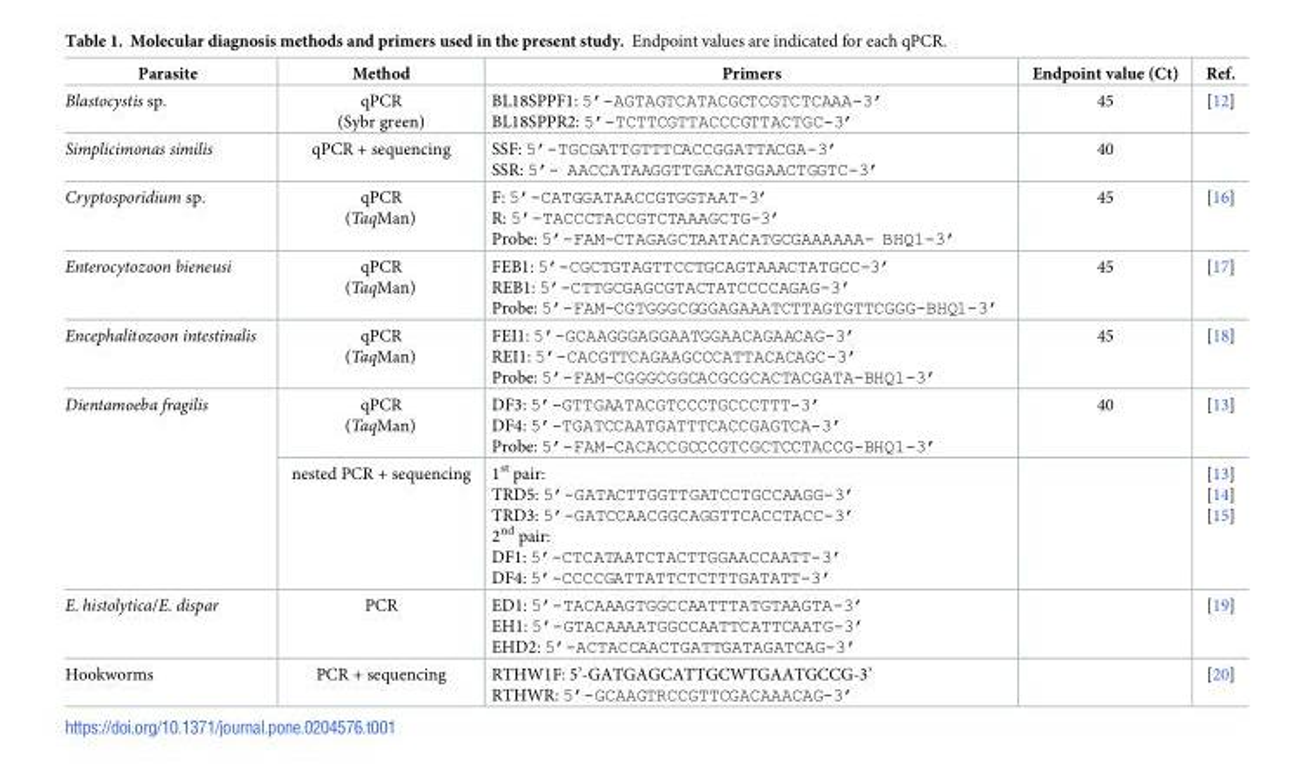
<table><thead><tr><td>Parasite</td><td>Method</td><td>Primers</td><td>Endpoint value (Ct)</td><td>Ref.</td></tr></thead><tbody><tr><td>Blastocystis sp.</td><td>qPCR (Sybr green)</td><td>BL18SPPF1: 5’-AGTAGTCATACGCTCGTCTCAAA-3’ BL18SPPR2: 5’-TCTTCGTTACCCGTTACTGC-3’</td><td>45</td><td>[12]</td></tr><tr><td>Simplicimonas similis</td><td>qPCR + sequencing</td><td>SSF: 5’-TGCGATTGTTTCACCGGATTACGA-3’ SSR: 5’- AACCATAAGGTTGACATGGAACTGGTC-3’</td><td>40</td><td></td></tr><tr><td>Cryptosporidium sp.</td><td>qPCR (TaqMan)</td><td>F: 5’-CATGGATAACCGTGGTAAT-3’ R: 5’-TACCCTACCGTCTAAAGCTG-3’ Probe: 5’-FAM-CTAGAGCTAATACATGCGAAAAAA- BHQ1-3’</td><td>45</td><td>[16]</td></tr><tr><td>Enterocytozoon bieneusi</td><td>qPCR (TaqMan)</td><td>FEB1: 5’-CGCTGTAGTTCCTGCAGTAAACTATGCC-3’ REB1: 5’-CTTGCGAGCGTACTATCCCCAGAG-3’ Probe: 5’-FAM-CGTGGGCGGGAGAAATCTTAGTGTTCGGG-BHQ1-3’</td><td>45</td><td>[17]</td></tr><tr><td>Encephalitozoon intestinalis</td><td>qPCR (TaqMan)</td><td>FEI1: 5’-GCAAGGGAGGAATGGAACAGAACAG-3’ REI1: 5’-CACGTTCAGAAGCCCATTACACAGC-3’ Probe: 5’-FAM-CGGGCGGCACGCGCACTACGATA-BHQ1-3’</td><td>45</td><td>[18]</td></tr><tr><td rowspan="2">Dientamoeba fragilis</td><td>qPCR (TaqMan)</td><td>DF3: 5’-GTTGAATACGTCCCTGCCCTTT-3’ DF4: 5’-TGATCCAATGATTTCACCGAGTCA-3’ Probe: 5’-FAM-CACACCGCCCGTCGCTCCTACCG-BHQ1-3’</td><td>40</td><td>[13]</td></tr><tr><td>nested PCR + sequencing</td><td>1<sup>st</sup> pair: TRD5: 5’-GATACTTGGTTGATCCTGCCAAGG-3’ TRD3: 5’-GATCCAACGGCAGGTTCACCTACC-3’ 2<sup>nd</sup> pair: DF1: 5’-CTCATAATCTACTTGGAACCAATT-3’ DF4: 5’-CCCCGATTATTCTCTTTGATATT-3’</td><td></td><td>[13] [14] [15]</td></tr><tr><td>E. histolytica/E. dispar</td><td>PCR</td><td>ED1: 5’-TACAAAGTGGCCAATTTATGTAAGTA-3’ EH1: 5’-GTACAAAATGGCCAATTCATTCAATG-3’ EHD2: 5’-ACTACCAACTGATTGATAGATCAG-3’</td><td></td><td>[19]</td></tr><tr><td>Hookworms</td><td>PCR + sequencing</td><td>RTHW1F: 5’-GATGAGCATTGCWTGAATGCCG-3’ RTHWR: 5’-GCAAGTRCCGTTCGACAAACAG-3’</td><td></td><td>[20]</td></tr></tbody></table>